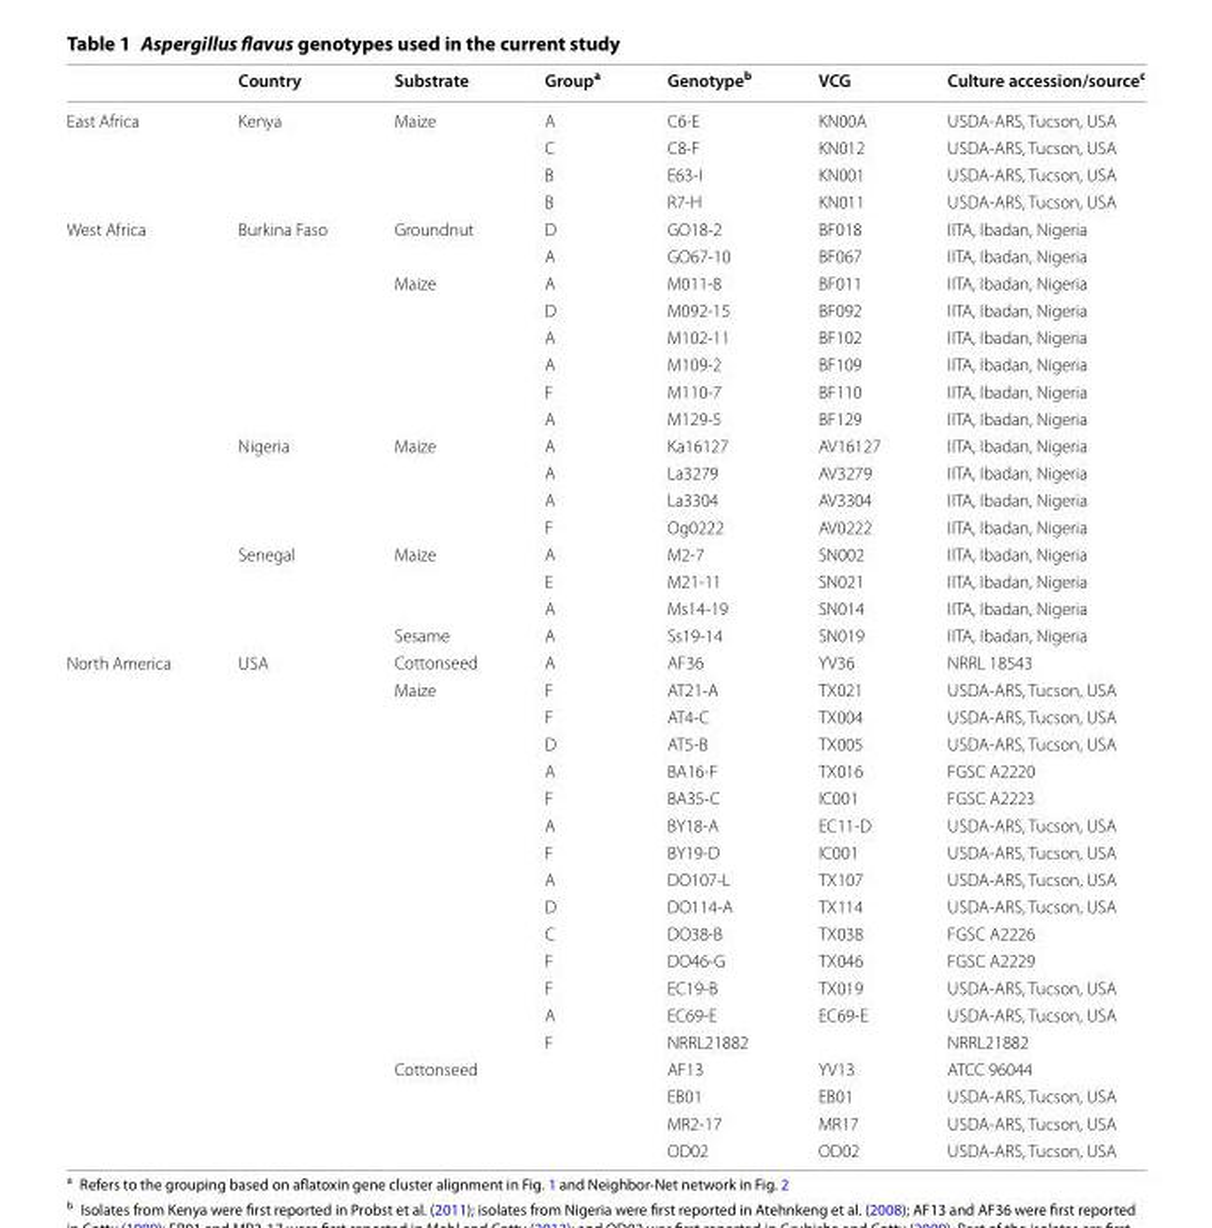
<table><thead><tr><td></td><td>Country</td><td>Substrate</td><td>Group<sup>a</sup></td><td>Genotype<sup>b</sup></td><td>VCG</td><td>Culture accession/source<sup>c</sup></td></tr></thead><tbody><tr><td rowspan="4">East Africa</td><td rowspan="4">Kenya</td><td rowspan="4">Maize</td><td>A</td><td>C6-E</td><td>KN00A</td><td>USDA-ARS, Tucson, USA</td></tr><tr><td>C</td><td>C8-F</td><td>KN012</td><td>USDA-ARS, Tucson, USA</td></tr><tr><td>B</td><td>E63-I</td><td>KN001</td><td>USDA-ARS, Tucson, USA</td></tr><tr><td>B</td><td>R7-H</td><td>KN011</td><td>USDA-ARS, Tucson, USA</td></tr><tr><td rowspan="16">West Africa</td><td rowspan="8">Burkina Faso</td><td rowspan="2">Groundnut</td><td>D</td><td>GO18-2</td><td>BF018</td><td>IITA, Ibadan, Nigeria</td></tr><tr><td>A</td><td>GO67-10</td><td>BF067</td><td>IITA, Ibadan, Nigeria</td></tr><tr><td rowspan="6">Maize</td><td>A</td><td>M011-8</td><td>BF011</td><td>IITA, Ibadan, Nigeria</td></tr><tr><td>D</td><td>M092-15</td><td>BF092</td><td>IITA, Ibadan, Nigeria</td></tr><tr><td>A</td><td>M102-11</td><td>BF102</td><td>IITA, Ibadan, Nigeria</td></tr><tr><td>A</td><td>M109-2</td><td>BF109</td><td>IITA, Ibadan, Nigeria</td></tr><tr><td>F</td><td>M110-7</td><td>BF110</td><td>IITA, Ibadan, Nigeria</td></tr><tr><td>A</td><td>M129-5</td><td>BF129</td><td>IITA, Ibadan, Nigeria</td></tr><tr><td rowspan="4">Nigeria</td><td rowspan="4">Maize</td><td>A</td><td>Ka16127</td><td>AV16127</td><td>IITA, Ibadan, Nigeria</td></tr><tr><td>A</td><td>La3279</td><td>AV3279</td><td>IITA, Ibadan, Nigeria</td></tr><tr><td>A</td><td>La3304</td><td>AV3304</td><td>IITA, Ibadan, Nigeria</td></tr><tr><td>F</td><td>Og0222</td><td>AV0222</td><td>IITA, Ibadan, Nigeria</td></tr><tr><td rowspan="4">Senegal</td><td rowspan="3">Maize</td><td>A</td><td>M2-7</td><td>SN002</td><td>IITA, Ibadan, Nigeria</td></tr><tr><td>E</td><td>M21-11</td><td>SN021</td><td>IITA, Ibadan, Nigeria</td></tr><tr><td>A</td><td>Ms14-19</td><td>SN014</td><td>IITA, Ibadan, Nigeria</td></tr><tr><td>Sesame</td><td>A</td><td>Ss19-14</td><td>SN019</td><td>IITA, Ibadan, Nigeria</td></tr><tr><td rowspan="19">North America</td><td rowspan="19">USA</td><td>Cottonseed</td><td>A</td><td>AF36</td><td>YV36</td><td>NRRL 18543</td></tr><tr><td rowspan="14">Maize</td><td>F</td><td>AT21-A</td><td>TX021</td><td>USDA-ARS, Tucson, USA</td></tr><tr><td>F</td><td>AT4-C</td><td>TX004</td><td>USDA-ARS, Tucson, USA</td></tr><tr><td>D</td><td>AT5-B</td><td>TX005</td><td>USDA-ARS, Tucson, USA</td></tr><tr><td>A</td><td>BA16-F</td><td>TX016</td><td>FGSC A2220</td></tr><tr><td>F</td><td>BA35-C</td><td>IC001</td><td>FGSC A2223</td></tr><tr><td>A</td><td>BY18-A</td><td>EC11-D</td><td>USDA-ARS, Tucson, USA</td></tr><tr><td>F</td><td>BY19-D</td><td>IC001</td><td>USDA-ARS, Tucson, USA</td></tr><tr><td>A</td><td>DO107-L</td><td>TX107</td><td>USDA-ARS, Tucson, USA</td></tr><tr><td>D</td><td>DO114-A</td><td>TX114</td><td>USDA-ARS, Tucson, USA</td></tr><tr><td>C</td><td>DO38-B</td><td>TX038</td><td>FGSC A2226</td></tr><tr><td>F</td><td>DO46-G</td><td>TX046</td><td>FGSC A2229</td></tr><tr><td>F</td><td>EC19-B</td><td>TX019</td><td>USDA-ARS, Tucson, USA</td></tr><tr><td>A</td><td>EC69-E</td><td>EC69-E</td><td>USDA-ARS, Tucson, USA</td></tr><tr><td>F</td><td>NRRL21882</td><td></td><td>NRRL21882</td></tr><tr><td rowspan="4">Cottonseed</td><td></td><td>AF13</td><td>YV13</td><td>ATCC 96044</td></tr><tr><td></td><td>EB01</td><td>EB01</td><td>USDA-ARS, Tucson, USA</td></tr><tr><td></td><td>MR2-17</td><td>MR17</td><td>USDA-ARS, Tucson, USA</td></tr><tr><td></td><td>OD02</td><td>OD02</td><td>USDA-ARS, Tucson, USA</td></tr></tbody></table>